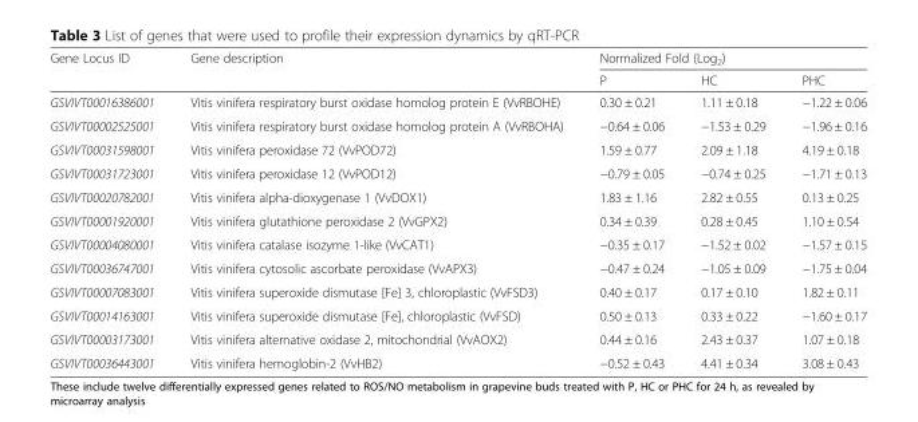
<table><thead><tr><td rowspan="2">Gene Locus ID</td><td rowspan="2">Gene description</td><td colspan="3">Normalized Fold (Log<sub>2</sub>)</td></tr><tr><td>P</td><td>HC</td><td>PHC</td></tr></thead><tbody><tr><td>GSVIVT00016386001</td><td>Vitis vinifera respiratory burst oxidase homolog protein E (VvRBOHE)</td><td>0.30 ± 0.21</td><td>1.11 ± 0.18</td><td>−1.22 ± 0.06</td></tr><tr><td>GSVIVT00002525001</td><td>Vitis vinifera respiratory burst oxidase homolog protein A (VvRBOHA)</td><td>−0.64 ± 0.06</td><td>−1.53 ± 0.29</td><td>−1.96 ± 0.16</td></tr><tr><td>GSVIVT00031598001</td><td>Vitis vinifera peroxidase 72 (VvPOD72)</td><td>1.59 ± 0.77</td><td>2.09 ± 1.18</td><td>4.19 ± 0.18</td></tr><tr><td>GSVIVT00031723001</td><td>Vitis vinifera peroxidase 12 (VvPOD12)</td><td>−0.79 ± 0.05</td><td>−0.74 ± 0.25</td><td>−1.71 ± 0.13</td></tr><tr><td>GSVIVT00020782001</td><td>Vitis vinifera alpha-dioxygenase 1 (VvDOX1)</td><td>1.83 ± 1.16</td><td>2.82 ± 0.55</td><td>0.13 ± 0.25</td></tr><tr><td>GSVIVT00001920001</td><td>Vitis vinifera glutathione peroxidase 2 (VvGPX2)</td><td>0.34 ± 0.39</td><td>0.28 ± 0.45</td><td>1.10 ± 0.54</td></tr><tr><td>GSVIVT00004080001</td><td>Vitis vinifera catalase isozyme 1-like (VvCAT1)</td><td>−0.35 ± 0.17</td><td>−1.52 ± 0.02</td><td>−1.57 ± 0.15</td></tr><tr><td>GSVIVT00036747001</td><td>Vitis vinifera cytosolic ascorbate peroxidase (VvAPX3)</td><td>−0.47 ± 0.24</td><td>−1.05 ± 0.09</td><td>−1.75 ± 0.04</td></tr><tr><td>GSVIVT00007083001</td><td>Vitis vinifera superoxide dismutase [Fe] 3, chloroplastic (VvFSD3)</td><td>0.40 ± 0.17</td><td>0.17 ± 0.10</td><td>1.82 ± 0.11</td></tr><tr><td>GSVIVT00014163001</td><td>Vitis vinifera superoxide dismutase [Fe], chloroplastic (VvFSD)</td><td>0.50 ± 0.13</td><td>0.33 ± 0.22</td><td>−1.60 ± 0.17</td></tr><tr><td>GSVIVT00003173001</td><td>Vitis vinifera alternative oxidase 2, mitochondrial (VvAOX2)</td><td>0.44 ± 0.16</td><td>2.43 ± 0.37</td><td>1.07 ± 0.18</td></tr><tr><td>GSVIVT00036443001</td><td>Vitis vinifera hemoglobin-2 (VvHB2)</td><td>−0.52 ± 0.43</td><td>4.41 ± 0.34</td><td>3.08 ± 0.43</td></tr></tbody></table>